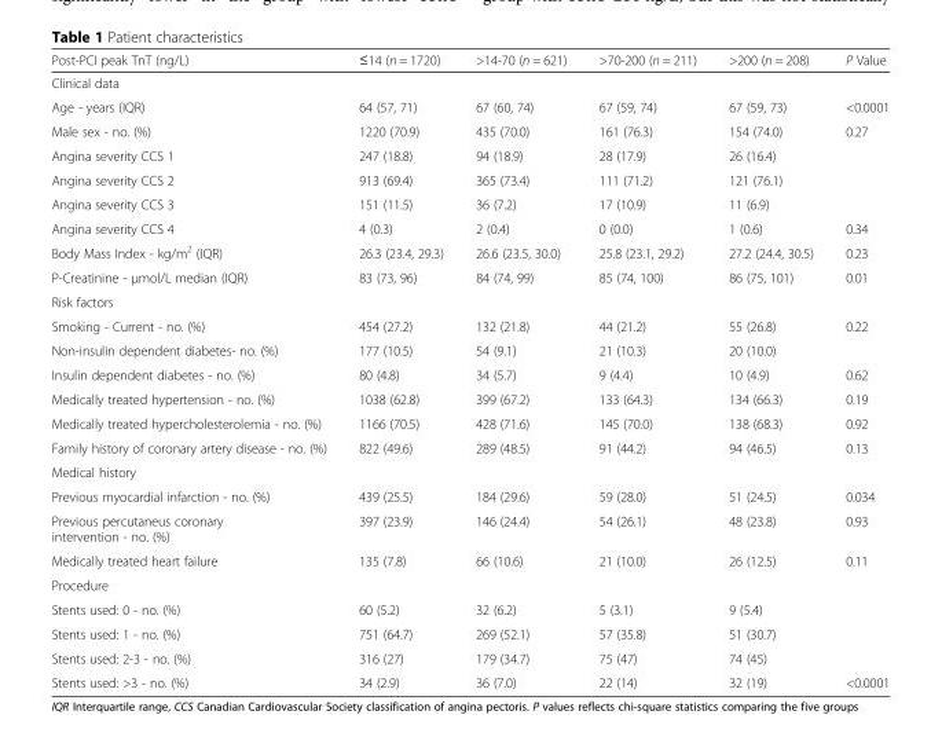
<table><thead><tr><td>Post-PCI peak TnT (ng/L)</td><td>≤14 (n = 1720)</td><td>&gt;14-70 (n = 621)</td><td>&gt;70-200 (n = 211)</td><td>&gt;200 (n = 208)</td><td>P Value</td></tr></thead><tbody><tr><td colspan="6">Clinical data</td></tr><tr><td>Age - years (IQR)</td><td>64 (57, 71)</td><td>67 (60, 74)</td><td>67 (59, 74)</td><td>67 (59, 73)</td><td>&lt;0.0001</td></tr><tr><td>Male sex - no. (%)</td><td>1220 (70.9)</td><td>435 (70.0)</td><td>161 (76.3)</td><td>154 (74.0)</td><td>0.27</td></tr><tr><td>Angina severity CCS 1</td><td>247 (18.8)</td><td>94 (18.9)</td><td>28 (17.9)</td><td>26 (16.4)</td><td></td></tr><tr><td>Angina severity CCS 2</td><td>913 (69.4)</td><td>365 (73.4)</td><td>111 (71.2)</td><td>121 (76.1)</td><td></td></tr><tr><td>Angina severity CCS 3</td><td>151 (11.5)</td><td>36 (7.2)</td><td>17 (10.9)</td><td>11 (6.9)</td><td></td></tr><tr><td>Angina severity CCS 4</td><td>4 (0.3)</td><td>2 (0.4)</td><td>0 (0.0)</td><td>1 (0.6)</td><td>0.34</td></tr><tr><td>Body Mass Index - kg/m<sup>2</sup> (IQR)</td><td>26.3 (23.4, 29.3)</td><td>26.6 (23.5, 30.0)</td><td>25.8 (23.1, 29.2)</td><td>27.2 (24.4, 30.5)</td><td>0.23</td></tr><tr><td>P-Creatinine - μmol/L median (IQR)</td><td>83 (73, 96)</td><td>84 (74, 99)</td><td>85 (74, 100)</td><td>86 (75, 101)</td><td>0.01</td></tr><tr><td colspan="6">Risk factors</td></tr><tr><td>Smoking - Current - no. (%)</td><td>454 (27.2)</td><td>132 (21.8)</td><td>44 (21.2)</td><td>55 (26.8)</td><td>0.22</td></tr><tr><td>Non-insulin dependent diabetes- no. (%)</td><td>177 (10.5)</td><td>54 (9.1)</td><td>21 (10.3)</td><td>20 (10.0)</td><td></td></tr><tr><td>Insulin dependent diabetes - no. (%)</td><td>80 (4.8)</td><td>34 (5.7)</td><td>9 (4.4)</td><td>10 (4.9)</td><td>0.62</td></tr><tr><td>Medically treated hypertension - no. (%)</td><td>1038 (62.8)</td><td>399 (67.2)</td><td>133 (64.3)</td><td>134 (66.3)</td><td>0.19</td></tr><tr><td>Medically treated hypercholesterolemia - no. (%)</td><td>1166 (70.5)</td><td>428 (71.6)</td><td>145 (70.0)</td><td>138 (68.3)</td><td>0.92</td></tr><tr><td>Family history of coronary artery disease - no. (%)</td><td>822 (49.6)</td><td>289 (48.5)</td><td>91 (44.2)</td><td>94 (46.5)</td><td>0.13</td></tr><tr><td colspan="6">Medical history</td></tr><tr><td>Previous myocardial infarction - no. (%)</td><td>439 (25.5)</td><td>184 (29.6)</td><td>59 (28.0)</td><td>51 (24.5)</td><td>0.034</td></tr><tr><td>Previous percutaneus coronary intervention - no. (%)</td><td>397 (23.9)</td><td>146 (24.4)</td><td>54 (26.1)</td><td>48 (23.8)</td><td>0.93</td></tr><tr><td>Medically treated heart failure</td><td>135 (7.8)</td><td>66 (10.6)</td><td>21 (10.0)</td><td>26 (12.5)</td><td>0.11</td></tr><tr><td colspan="6">Procedure</td></tr><tr><td>Stents used: 0 - no. (%)</td><td>60 (5.2)</td><td>32 (6.2)</td><td>5 (3.1)</td><td>9 (5.4)</td><td></td></tr><tr><td>Stents used: 1 - no. (%)</td><td>751 (64.7)</td><td>269 (52.1)</td><td>57 (35.8)</td><td>51 (30.7)</td><td></td></tr><tr><td>Stents used: 2-3 - no. (%)</td><td>316 (27)</td><td>179 (34.7)</td><td>75 (47)</td><td>74 (45)</td><td></td></tr><tr><td>Stents used: &gt;3 - no. (%)</td><td>34 (2.9)</td><td>36 (7.0)</td><td>22 (14)</td><td>32 (19)</td><td>&lt;0.0001</td></tr></tbody></table>